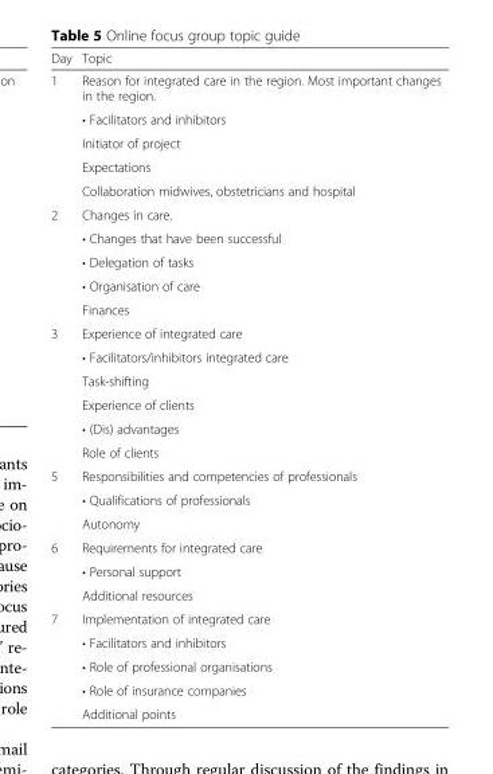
<table><thead><tr><td>Day</td><td>Topic</td></tr></thead><tbody><tr><td rowspan="5">1</td><td>Reason for integrated care in the region. Most important changes in the region.</td></tr><tr><td>• Facilitators and inhibitors</td></tr><tr><td>Initiator of project</td></tr><tr><td>Expectations</td></tr><tr><td>Collaboration midwives, obstetricians and hospital</td></tr><tr><td rowspan="5">2</td><td>Changes in care.</td></tr><tr><td>• Changes that have been successful</td></tr><tr><td>• Delegation of tasks</td></tr><tr><td>• Organisation of care</td></tr><tr><td>Finances</td></tr><tr><td rowspan="6">3</td><td>Experience of integrated care</td></tr><tr><td>• Facilitators/inhibitors integrated care</td></tr><tr><td>Task-shifting</td></tr><tr><td>Experience of clients</td></tr><tr><td>• (Dis) advantages</td></tr><tr><td>Role of clients</td></tr><tr><td rowspan="3">5</td><td>Responsibilities and competencies of professionals</td></tr><tr><td>• Qualifications of professionals</td></tr><tr><td>Autonomy</td></tr><tr><td rowspan="3">6</td><td>Requirements for integrated care</td></tr><tr><td>• Personal support</td></tr><tr><td>Additional resources</td></tr><tr><td rowspan="5">7</td><td>Implementation of integrated care</td></tr><tr><td>• Facilitators and inhibitors</td></tr><tr><td>• Role of professional organisations</td></tr><tr><td>• Role of insurance companies</td></tr><tr><td>Additional points</td></tr></tbody></table>